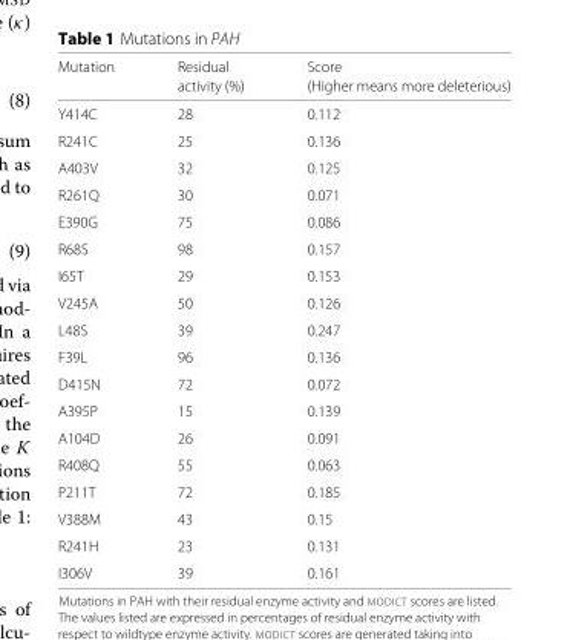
<table><thead><tr><td rowspan="2">Mutation</td><td rowspan="2">Residual activity (%)</td><td rowspan="2">Score (Higher means more deleterious)</td></tr><tr></tr></thead><tbody><tr><td>Y414C</td><td>28</td><td>0.112</td></tr><tr><td>R241C</td><td>25</td><td>0.136</td></tr><tr><td>A403V</td><td>32</td><td>0.125</td></tr><tr><td>R261Q</td><td>30</td><td>0.071</td></tr><tr><td>E390G</td><td>75</td><td>0.086</td></tr><tr><td>R68S</td><td>98</td><td>0.157</td></tr><tr><td>I65T</td><td>29</td><td>0.153</td></tr><tr><td>V245A</td><td>50</td><td>0.126</td></tr><tr><td>L48S</td><td>39</td><td>0.247</td></tr><tr><td>F39L</td><td>96</td><td>0.136</td></tr><tr><td>D415N</td><td>72</td><td>0.072</td></tr><tr><td>A395P</td><td>15</td><td>0.139</td></tr><tr><td>A104D</td><td>26</td><td>0.091</td></tr><tr><td>R408Q</td><td>55</td><td>0.063</td></tr><tr><td>P211T</td><td>72</td><td>0.185</td></tr><tr><td>V388M</td><td>43</td><td>0.15</td></tr><tr><td>R241H</td><td>23</td><td>0.131</td></tr><tr><td>I306V</td><td>39</td><td>0.161</td></tr></tbody></table>